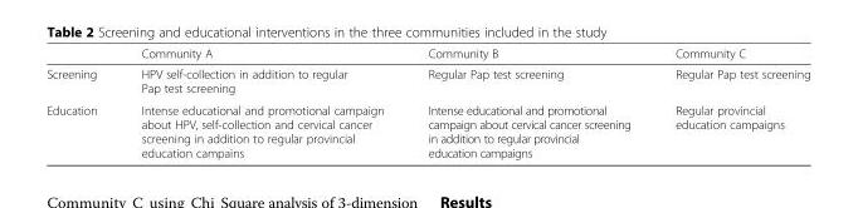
<table><thead><tr><td></td><td>Community A</td><td>Community B</td><td>Community C</td></tr></thead><tbody><tr><td>Screening</td><td>HPV self-collection in addition to regular Pap test screening</td><td>Regular Pap test screening</td><td>Regular Pap test screening</td></tr><tr><td>Education</td><td>Intense educational and promotional campaign about HPV, self-collection and cervical cancer screening in addition to regular provincial education campains</td><td>Intense educational and promotional campaign about cervical cancer screening in addition to regular provincial education campaigns</td><td>Regular provincial education campaigns</td></tr></tbody></table>